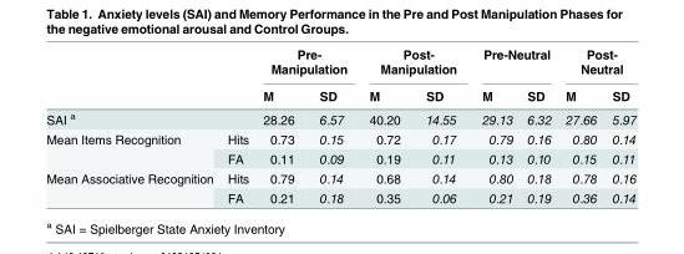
<table><thead><tr><td rowspan="2"></td><td rowspan="2"></td><td colspan="2">Pre- Manipulation</td><td colspan="2">Post- Manipulation</td><td colspan="2">Pre-Neutral</td><td colspan="2">Post- Neutral</td></tr><tr><td>M</td><td>SD</td><td>M</td><td>SD</td><td>M</td><td>SD</td><td>M</td><td>SD</td></tr></thead><tbody><tr><td>SAI <sup>a</sup></td><td></td><td>28.26</td><td>6.57</td><td>40.20</td><td>14.55</td><td>29.13</td><td>6.32</td><td>27.66</td><td>5.97</td></tr><tr><td rowspan="2">Mean Items Recognition</td><td>Hits</td><td>0.73</td><td>0.15</td><td>0.72</td><td>0.17</td><td>0.79</td><td>0.16</td><td>0.80</td><td>0.14</td></tr><tr><td>FA</td><td>0.11</td><td>0.09</td><td>0.19</td><td>0.11</td><td>0.13</td><td>0.10</td><td>0.15</td><td>0.11</td></tr><tr><td rowspan="2">Mean Associative Recognition</td><td>Hits</td><td>0.79</td><td>0.14</td><td>0.68</td><td>0.14</td><td>0.80</td><td>0.18</td><td>0.78</td><td>0.16</td></tr><tr><td>FA</td><td>0.21</td><td>0.18</td><td>0.35</td><td>0.06</td><td>0.21</td><td>0.19</td><td>0.36</td><td>0.14</td></tr></tbody></table>